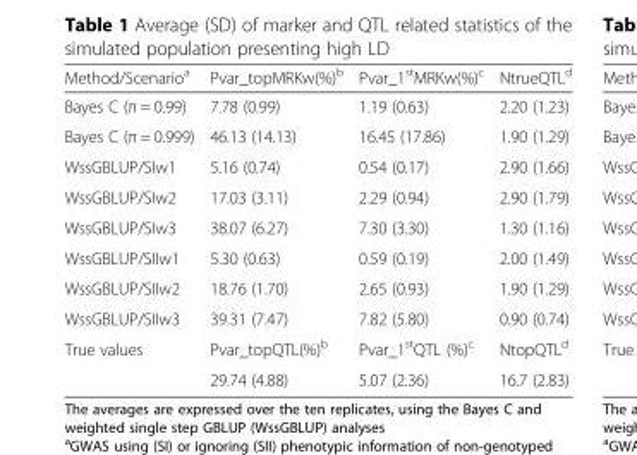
<table><thead><tr><td>Method/Scenario<sup>a</sup></td><td>Pvar_topMRKw(%)<sup>b</sup></td><td>Pvar_1<sup>st</sup>MRKw(%)<sup>c</sup></td><td>NtrueQTL<sup>d</sup></td></tr></thead><tbody><tr><td>Bayes C (π = 0.99)</td><td>7.78 (0.99)</td><td>1.19 (0.63)</td><td>2.20 (1.23)</td></tr><tr><td>Bayes C (π = 0.999)</td><td>46.13 (14.13)</td><td>16.45 (17.86)</td><td>1.90 (1.29)</td></tr><tr><td>WssGBLUP/SIw1</td><td>5.16 (0.74)</td><td>0.54 (0.17)</td><td>2.90 (1.66)</td></tr><tr><td>WssGBLUP/SIw2</td><td>17.03 (3.11)</td><td>2.29 (0.94)</td><td>2.90 (1.79)</td></tr><tr><td>WssGBLUP/SIw3</td><td>38.07 (6.27)</td><td>7.30 (3.30)</td><td>1.30 (1.16)</td></tr><tr><td>WssGBLUP/SIIw1</td><td>5.30 (0.63)</td><td>0.59 (0.19)</td><td>2.00 (1.49)</td></tr><tr><td>WssGBLUP/SIIw2</td><td>18.76 (1.70)</td><td>2.65 (0.93)</td><td>1.90 (1.29)</td></tr><tr><td>WssGBLUP/SIIw3</td><td>39.31 (7.47)</td><td>7.82 (5.80)</td><td>0.90 (0.74)</td></tr><tr><td rowspan="2">True values</td><td>Pvar_topQTL(%)<sup>b</sup></td><td>Pvar_1<sup>st</sup>QTL (%)<sup>c</sup></td><td>NtopQTL<sup>d</sup></td></tr><tr><td>29.74 (4.88)</td><td>5.07 (2.36)</td><td>16.7 (2.83)</td></tr></tbody></table>